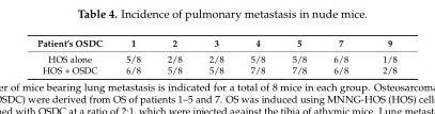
<table><thead><tr><td>Patient’s OSDC</td><td>1</td><td>2</td><td>3</td><td>4</td><td>5</td><td>7</td><td>9</td></tr></thead><tbody><tr><td>HOS alone</td><td>5/8</td><td>2/8</td><td>2/8</td><td>5/8</td><td>5/8</td><td>6/8</td><td>1/8</td></tr><tr><td>HOS + OSDC</td><td>6/8</td><td>5/8</td><td>5/8</td><td>7/8</td><td>7/8</td><td>6/8</td><td>2/8</td></tr></tbody></table>